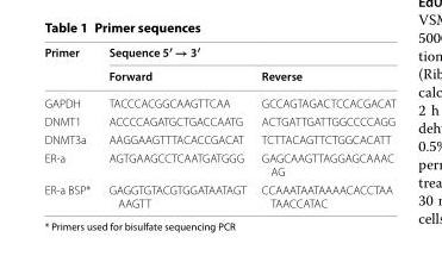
<table><thead><tr><td rowspan="2">Primer</td><td colspan="2">Sequence 5′ → 3′</td></tr><tr><td>Forward</td><td>Reverse</td></tr></thead><tbody><tr><td>GAPDH</td><td>TACCCACGGCAAGTTCAA</td><td>GCCAGTAGACTCCACGACAT</td></tr><tr><td>DNMT1</td><td>ACCCCAGATGCTGACCAATG</td><td>ACTGATTGATTGGCCCCAGG</td></tr><tr><td>DNMT3a</td><td>AAGGAAGTTTACACCGACAT</td><td>TCTTACAGTTCTGGCACATT</td></tr><tr><td>ER-a</td><td>AGTGAAGCCTCAATGATGGG</td><td>GAGCAAGTTAGGAGCAAAC AG</td></tr><tr><td>ER-a BSP*</td><td>GAGGTGTACGTGGATAATAGT AAGTT</td><td>CCAAATAATAAAACACCTAA TAACCATAC</td></tr></tbody></table>